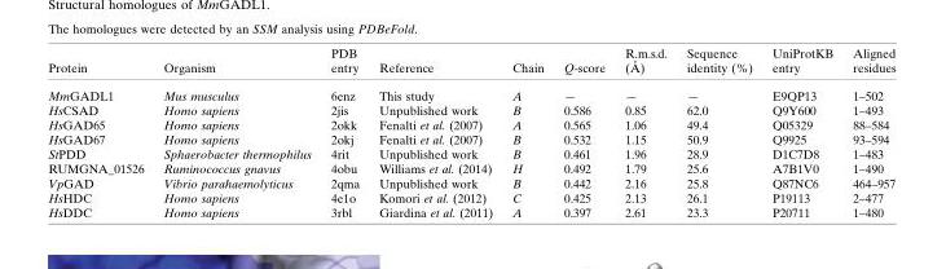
<table><thead><tr><td>Protein</td><td>Organism</td><td>PDB entry</td><td>Reference</td><td>Chain</td><td>Q-score</td><td>R.m.s.d. (A˚ )</td><td>Sequence identity (%)</td><td>UniProtKB entry</td><td>Aligned residues</td></tr></thead><tbody><tr><td>MmGADL1</td><td>Mus musculus</td><td>6enz</td><td>This study</td><td>A</td><td>—</td><td>—</td><td>—</td><td>E9QP13</td><td>1–502</td></tr><tr><td>HsCSAD</td><td>Homo sapiens</td><td>2jis</td><td>Unpublished work</td><td>B</td><td>0.586</td><td>0.85</td><td>62.0</td><td>Q9Y600</td><td>1–493</td></tr><tr><td>HsGAD65</td><td>Homo sapiens</td><td>2okk</td><td>Fenalti et al. (2007)</td><td>A</td><td>0.565</td><td>1.06</td><td>49.4</td><td>Q05329</td><td>88–584</td></tr><tr><td>HsGAD67</td><td>Homo sapiens</td><td>2okj</td><td>Fenalti et al. (2007)</td><td>B</td><td>0.532</td><td>1.15</td><td>50.9</td><td>Q9925</td><td>93–594</td></tr><tr><td>StPDD</td><td>Sphaerobacter thermophilus</td><td>4rit</td><td>Unpublished work</td><td>B</td><td>0.461</td><td>1.96</td><td>28.9</td><td>D1C7D8</td><td>1–483</td></tr><tr><td>RUMGNA_01526</td><td>Ruminococcus gnavus</td><td>4obu</td><td>Williams et al. (2014)</td><td>H</td><td>0.492</td><td>1.79</td><td>25.6</td><td>A7B1V0</td><td>1–490</td></tr><tr><td>VpGAD</td><td>Vibrio parahaemolyticus</td><td>2qma</td><td>Unpublished work</td><td>B</td><td>0.442</td><td>2.16</td><td>25.8</td><td>Q87NC6</td><td>464–957</td></tr><tr><td>HsHDC</td><td>Homo sapiens</td><td>4e1o</td><td>Komori et al. (2012)</td><td>C</td><td>0.425</td><td>2.13</td><td>26.1</td><td>P19113</td><td>2–477</td></tr><tr><td>HsDDC</td><td>Homo sapiens</td><td>3rbl</td><td>Giardina et al. (2011)</td><td>A</td><td>0.397</td><td>2.61</td><td>23.3</td><td>P20711</td><td>1–480</td></tr></tbody></table>